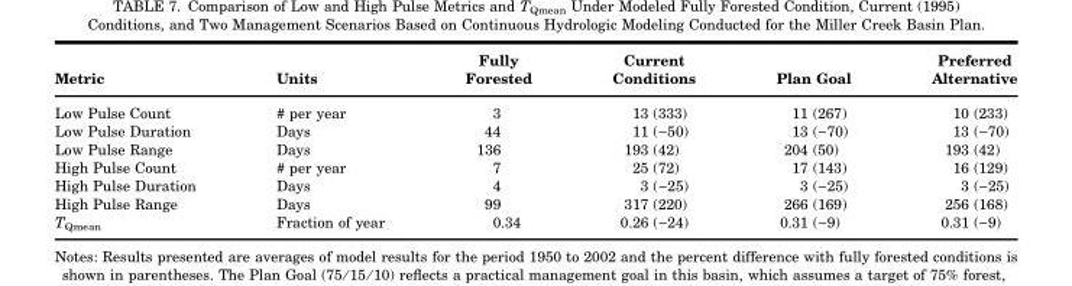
<table><thead><tr><td>Metric</td><td>Units</td><td>Fully Forested</td><td>Current Conditions</td><td>Plan Goal</td><td>Preferred Alternative</td></tr></thead><tbody><tr><td>Low Pulse Count</td><td># per year</td><td>3</td><td>13 (333)</td><td>11 (267)</td><td>10 (233)</td></tr><tr><td>Low Pulse Duration</td><td>Days</td><td>44</td><td>11 (−50)</td><td>13 (−70)</td><td>13 (−70)</td></tr><tr><td>Low Pulse Range</td><td>Days</td><td>136</td><td>193 (42)</td><td>204 (50)</td><td>193 (42)</td></tr><tr><td>High Pulse Count</td><td># per year</td><td>7</td><td>25 (72)</td><td>17 (143)</td><td>16 (129)</td></tr><tr><td>High Pulse Duration</td><td>Days</td><td>4</td><td>3 (−25)</td><td>3 (−25)</td><td>3 (−25)</td></tr><tr><td>High Pulse Range</td><td>Days</td><td>99</td><td>317 (220)</td><td>266 (169)</td><td>256 (168)</td></tr><tr><td>T<sub>Qmean</sub></td><td>Fraction of year</td><td>0.34</td><td>0.26 (−24)</td><td>0.31 (−9)</td><td>0.31 (−9)</td></tr></tbody></table>